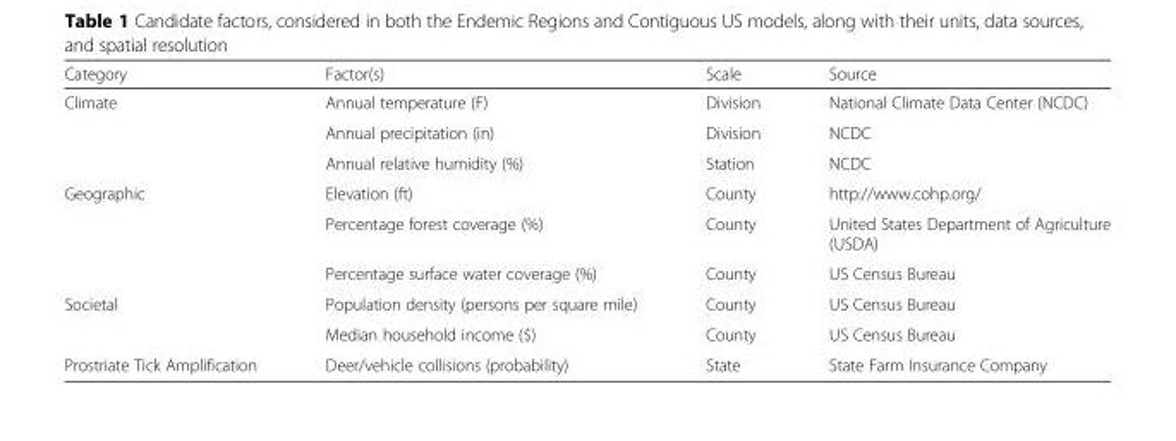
<table><thead><tr><td>Category</td><td>Factor(s)</td><td>Scale</td><td>Source</td></tr></thead><tbody><tr><td rowspan="3">Climate</td><td>Annual temperature (F)</td><td>Division</td><td>National Climate Data Center (NCDC)</td></tr><tr><td>Annual precipitation (in)</td><td>Division</td><td>NCDC</td></tr><tr><td>Annual relative humidity (%)</td><td>Station</td><td>NCDC</td></tr><tr><td rowspan="3">Geographic</td><td>Elevation (ft)</td><td>County</td><td>http://www.cohp.org/</td></tr><tr><td>Percentage forest coverage (%)</td><td>County</td><td>United States Department of Agriculture (USDA)</td></tr><tr><td>Percentage surface water coverage (%)</td><td>County</td><td>US Census Bureau</td></tr><tr><td rowspan="2">Societal</td><td>Population density (persons per square mile)</td><td>County</td><td>US Census Bureau</td></tr><tr><td>Median household income ($)</td><td>County</td><td>US Census Bureau</td></tr><tr><td>Prostriate Tick Amplification</td><td>Deer/vehicle collisions (probability)</td><td>State</td><td>State Farm Insurance Company</td></tr></tbody></table>